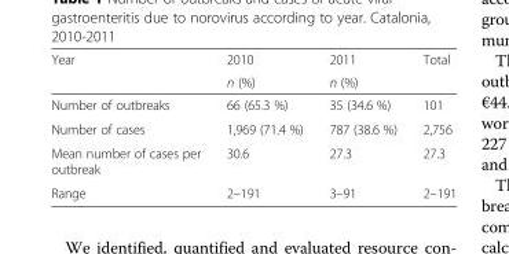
<table><thead><tr><td rowspan="2">Year</td><td rowspan="2">2010 n (%)</td><td rowspan="2">2011 n (%)</td><td rowspan="2">Total</td></tr><tr></tr></thead><tbody><tr><td>Number of outbreaks</td><td>66 (65.3 %)</td><td>35 (34.6 %)</td><td>101</td></tr><tr><td>Number of cases</td><td>1,969 (71.4 %)</td><td>787 (38.6 %)</td><td>2,756</td></tr><tr><td>Mean number of cases per outbreak</td><td>30.6</td><td>27.3</td><td>27.3</td></tr><tr><td>Range</td><td>2–191</td><td>3–91</td><td>2–191</td></tr></tbody></table>